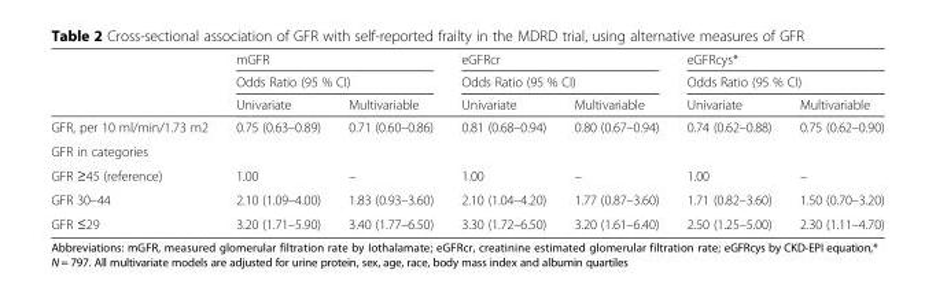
<table><thead><tr><td rowspan="3"></td><td rowspan="2" colspan="2">mGFR Odds Ratio (95 % CI)</td><td rowspan="2" colspan="2">eGFRcr Odds Ratio (95 % CI)</td><td rowspan="2" colspan="2">eGFRcys* Odds Ratio (95 % CI)</td></tr><tr></tr><tr><td>Univariate</td><td>Multivariable</td><td>Univariate</td><td>Multivariable</td><td>Univariate</td><td>Multivariable</td></tr></thead><tbody><tr><td>GFR, per 10 ml/min/1.73 m2</td><td>0.75 (0.63–0.89)</td><td>0.71 (0.60–0.86)</td><td>0.81 (0.68–0.94)</td><td>0.80 (0.67–0.94)</td><td>0.74 (0.62–0.88)</td><td>0.75 (0.62–0.90)</td></tr><tr><td colspan="7">GFR in categories</td></tr><tr><td>GFR ≥45 (reference)</td><td>1.00</td><td>–</td><td>1.00</td><td>–</td><td>1.00</td><td>–</td></tr><tr><td>GFR 30–44</td><td>2.10 (1.09–4.00)</td><td>1.83 (0.93–3.60)</td><td>2.10 (1.04–4.20)</td><td>1.77 (0.87–3.60)</td><td>1.71 (0.82–3.60)</td><td>1.50 (0.70–3.20)</td></tr><tr><td>GFR ≤29</td><td>3.20 (1.71–5.90)</td><td>3.40 (1.77–6.50)</td><td>3.30 (1.72–6.50)</td><td>3.20 (1.61–6.40)</td><td>2.50 (1.25–5.00)</td><td>2.30 (1.11–4.70)</td></tr></tbody></table>